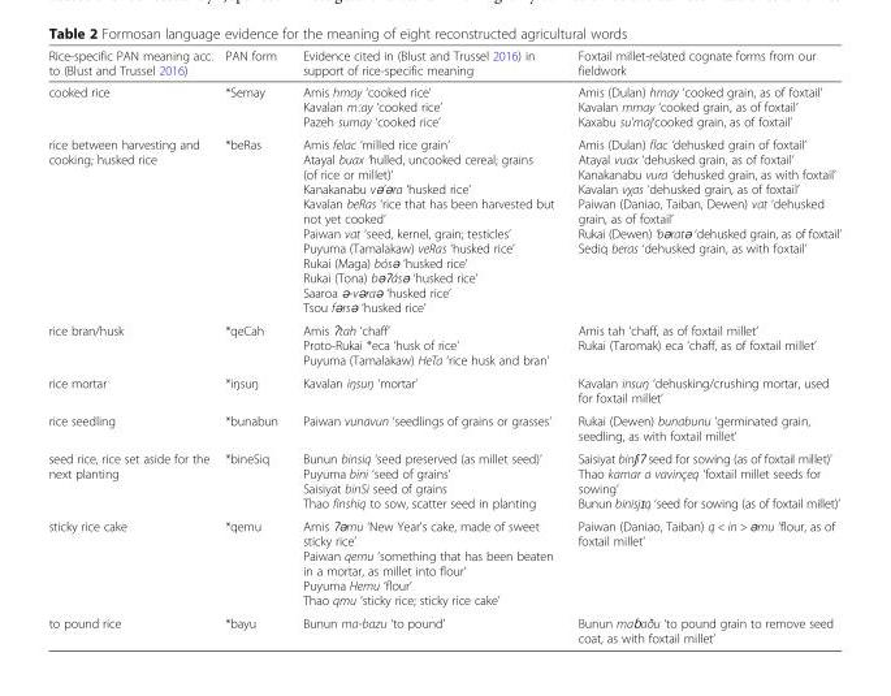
<table><thead><tr><td>Rice-specific PAN meaning acc. to (Blust and Trussel 2016)</td><td>PAN form</td><td>Evidence cited in (Blust and Trussel 2016) in support of rice-specific meaning</td><td>Foxtail millet-related cognate forms from our fieldwork</td></tr></thead><tbody><tr><td>cooked rice</td><td>*Semay</td><td>Amis hmay ‘cooked rice’ Kavalan mːay ‘cooked rice’ Pazeh sumay ‘cooked rice’</td><td>Amis (Dulan) hmay ‘cooked grain, as of foxtail’ Kavalan mmay ‘cooked grain, as of foxtail’ Kaxabu su&#x27;maj‘cooked grain, as of foxtail’</td></tr><tr><td>rice between harvesting and cooking; husked rice</td><td>*beRas</td><td>Amis felac ‘milled rice grain’ Atayal buax ‘hulled, uncooked cereal; grains (of rice or millet)’ Kanakanabu və’əra ‘husked rice’ Kavalan beRas ‘rice that has been harvested but not yet cooked’ Paiwan vat ‘seed, kernel, grain; testicles’ Puyuma (Tamalakaw) veRas ‘husked rice’ Rukai (Maga) bósə ‘husked rice’ Rukai (Tona) bəʔásə ‘husked rice’ Saaroa ə-vəraə ‘husked rice’ Tsou fərsə ‘husked rice’</td><td>Amis (Dulan) flac ‘dehusked grain of foxtail’ Atayal vuax ‘dehusked grain, as of foxtail’ Kanakanabu vura ‘dehusked grain, as with foxtail’ Kavalan vχas ‘dehusked grain, as of foxtail’ Paiwan (Daniao, Taiban, Dewen) vat ‘dehusked grain, as of foxtail’ Rukai (Dewen) ‘bəratə ‘dehusked grain, as of foxtail’ Sediq beras ‘dehusked grain, as with foxtail’</td></tr><tr><td>rice bran/husk</td><td>*qeCah</td><td>Amis ʔtah ‘chaff’ Proto-Rukai *eca ‘husk of rice’ Puyuma (Tamalakaw) HeTa ‘rice husk and bran’</td><td>Amis tah ‘chaff, as of foxtail millet’ Rukai (Taromak) eca ‘chaff, as of foxtail millet’</td></tr><tr><td>rice mortar</td><td>*iŋsuŋ</td><td>Kavalan iŋsuŋ ‘mortar’</td><td>Kavalan insuŋ ‘dehusking/crushing mortar, used for foxtail millet’</td></tr><tr><td>rice seedling</td><td>*bunabun</td><td>Paiwan vunavun ‘seedlings of grains or grasses’</td><td>Rukai (Dewen) bunabunu ‘germinated grain, seedling, as with foxtail millet’</td></tr><tr><td>seed rice, rice set aside for the next planting</td><td>*bineSiq</td><td>Bunun binsiq ‘seed preserved (as millet seed)’ Puyuma bini ‘seed of grains’ Saisiyat binSi seed of grains Thao finshiq to sow, scatter seed in planting</td><td>Saisiyat binʃiʔ seed for sowing (as of foxtail millet)’ Thao kamar a vavinçeq ‘foxtail millet seeds for sowing’ Bunun binisjɪq ‘seed for sowing (as of foxtail millet)’</td></tr><tr><td>sticky rice cake</td><td>*qemu</td><td>Amis ʔəmu ‘New Year&#x27;s cake, made of sweet sticky rice’ Paiwan qemu ‘something that has been beaten in a mortar, as millet into flour’ Puyuma Hemu ‘flour’ Thao qmu ‘sticky rice; sticky rice cake’</td><td>Paiwan (Daniao, Taiban) q &lt; in &gt; əmu ‘flour, as of foxtail millet’</td></tr><tr><td>to pound rice</td><td>*bayu</td><td>Bunun ma-bazu ‘to pound’</td><td>Bunun maɓaðu ‘to pound grain to remove seed coat, as with foxtail millet’</td></tr></tbody></table>